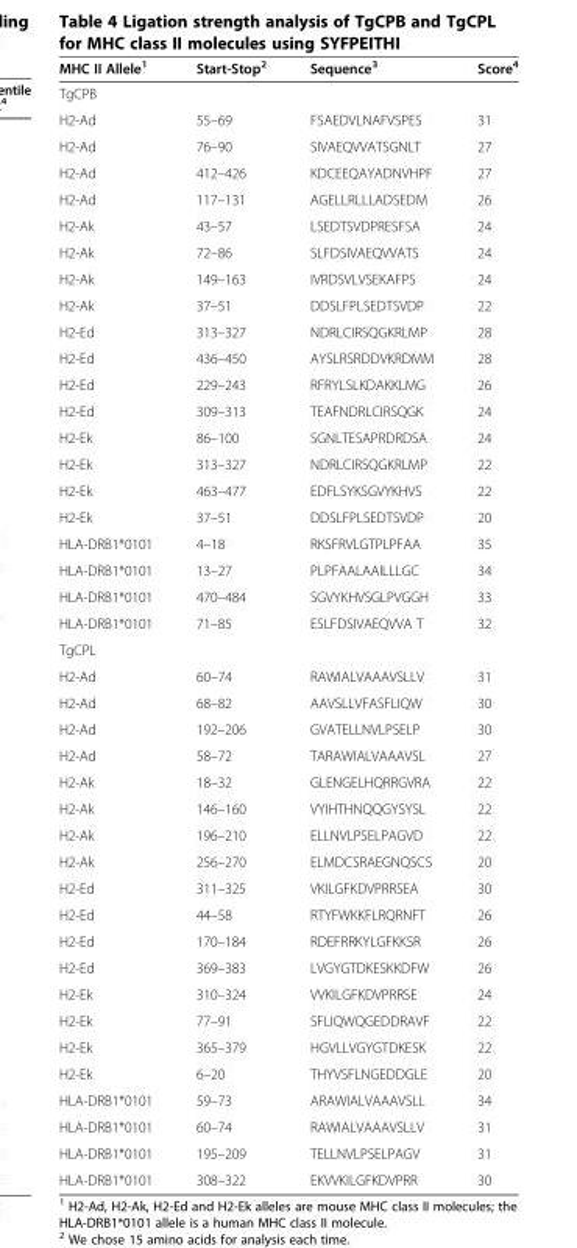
<table><thead><tr><td>MHC II Allele<sup>1</sup></td><td>Start-Stop<sup>2</sup></td><td>Sequence<sup>3</sup></td><td>Score<sup>4</sup></td></tr></thead><tbody><tr><td colspan="4">TgCPB</td></tr><tr><td>H2-Ad</td><td>55–69</td><td>FSAEDVLNAFVSPES</td><td>31</td></tr><tr><td>H2-Ad</td><td>76–90</td><td>SIVAEQVVATSGNLT</td><td>27</td></tr><tr><td>H2-Ad</td><td>412–426</td><td>KDCEEQAYADNVHPF</td><td>27</td></tr><tr><td>H2-Ad</td><td>117–131</td><td>AGELLRLLLADSEDM</td><td>26</td></tr><tr><td>H2-Ak</td><td>43–57</td><td>LSEDTSVDPRESFSA</td><td>24</td></tr><tr><td>H2-Ak</td><td>72–86</td><td>SLFDSIVAEQVVATS</td><td>24</td></tr><tr><td>H2-Ak</td><td>149–163</td><td>IVRDSVLVSEKAFPS</td><td>24</td></tr><tr><td>H2-Ak</td><td>37–51</td><td>DDSLFPLSEDTSVDP</td><td>22</td></tr><tr><td>H2-Ed</td><td>313–327</td><td>NDRLCIRSQGKRLMP</td><td>28</td></tr><tr><td>H2-Ed</td><td>436–450</td><td>AYSLRSRDDVKRDMM</td><td>28</td></tr><tr><td>H2-Ed</td><td>229–243</td><td>RFRYLSLKDAKKLMG</td><td>26</td></tr><tr><td>H2-Ed</td><td>309–313</td><td>TEAFNDRLCIRSQGK</td><td>24</td></tr><tr><td>H2-Ek</td><td>86–100</td><td>SGNLTESAPRDRDSA</td><td>24</td></tr><tr><td>H2-Ek</td><td>313–327</td><td>NDRLCIRSQGKRLMP</td><td>22</td></tr><tr><td>H2-Ek</td><td>463–477</td><td>EDFLSYKSGVYKHVS</td><td>22</td></tr><tr><td>H2-Ek</td><td>37–51</td><td>DDSLFPLSEDTSVDP</td><td>20</td></tr><tr><td>HLA-DRB1*0101</td><td>4–18</td><td>RKSFRVLGTPLPFAA</td><td>35</td></tr><tr><td>HLA-DRB1*0101</td><td>13–27</td><td>PLPFAALAAILLLGC</td><td>34</td></tr><tr><td>HLA-DRB1*0101</td><td>470–484</td><td>SGVYKHVSGLPVGGH</td><td>33</td></tr><tr><td>HLA-DRB1*0101</td><td>71–85</td><td>ESLFDSIVAEQVVA T</td><td>32</td></tr><tr><td colspan="4">TgCPL</td></tr><tr><td>H2-Ad</td><td>60–74</td><td>RAWIALVAAAVSLLV</td><td>31</td></tr><tr><td>H2-Ad</td><td>68–82</td><td>AAVSLLVFASFLIQW</td><td>30</td></tr><tr><td>H2-Ad</td><td>192–206</td><td>GVATELLNVLPSELP</td><td>30</td></tr><tr><td>H2-Ad</td><td>58–72</td><td>TARAWIALVAAAVSL</td><td>27</td></tr><tr><td>H2-Ak</td><td>18–32</td><td>GLENGELHQRRGVRA</td><td>22</td></tr><tr><td>H2-Ak</td><td>146–160</td><td>VYIHTHNQQGYSYSL</td><td>22</td></tr><tr><td>H2-Ak</td><td>196–210</td><td>ELLNVLPSELPAGVD</td><td>22</td></tr><tr><td>H2-Ak</td><td>256–270</td><td>ELMDCSRAEGNQSCS</td><td>20</td></tr><tr><td>H2-Ed</td><td>311–325</td><td>VKILGFKDVPRRSEA</td><td>30</td></tr><tr><td>H2-Ed</td><td>44–58</td><td>RTYFWKKFLRQRNFT</td><td>26</td></tr><tr><td>H2-Ed</td><td>170–184</td><td>RDEFRRKYLGFKKSR</td><td>26</td></tr><tr><td>H2-Ed</td><td>369–383</td><td>LVGYGTDKESKKDFW</td><td>26</td></tr><tr><td>H2-Ek</td><td>310–324</td><td>VVKILGFKDVPRRSE</td><td>24</td></tr><tr><td>H2-Ek</td><td>77–91</td><td>SFLIQWQGEDDRAVF</td><td>22</td></tr><tr><td>H2-Ek</td><td>365–379</td><td>HGVLLVGYGTDKESK</td><td>22</td></tr><tr><td>H2-Ek</td><td>6–20</td><td>THYVSFLNGEDDGLE</td><td>20</td></tr><tr><td>HLA-DRB1*0101</td><td>59–73</td><td>ARAWIALVAAAVSLL</td><td>34</td></tr><tr><td>HLA-DRB1*0101</td><td>60–74</td><td>RAWIALVAAAVSLLV</td><td>31</td></tr><tr><td>HLA-DRB1*0101</td><td>195–209</td><td>TELLNVLPSELPAGV</td><td>31</td></tr><tr><td>HLA-DRB1*0101</td><td>308–322</td><td>EKVVKILGFKDVPRR</td><td>30</td></tr></tbody></table>